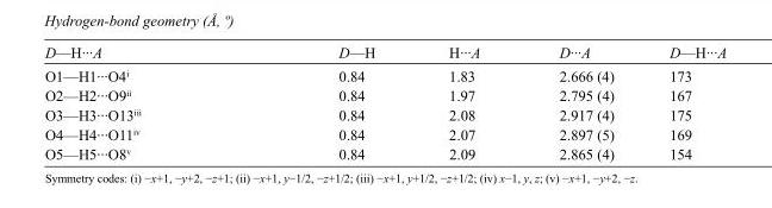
<table><tbody><tr><td>D—H···A</td><td>D—H</td><td>H···A</td><td>D···A</td><td>D—H···A</td></tr><tr><td>O1—H1···O4<sup>i</sup></td><td>0.84</td><td>1.83</td><td>2.666 (4)</td><td>173</td></tr><tr><td>O2—H2···O9<sup>ii</sup></td><td>0.84</td><td>1.97</td><td>2.795 (4)</td><td>167</td></tr><tr><td>O3—H3···O13<sup>iii</sup></td><td>0.84</td><td>2.08</td><td>2.917 (4)</td><td>175</td></tr><tr><td>O4—H4···O11<sup>iv</sup></td><td>0.84</td><td>2.07</td><td>2.897 (5)</td><td>169</td></tr><tr><td>O5—H5···O8<sup>v</sup></td><td>0.84</td><td>2.09</td><td>2.865 (4)</td><td>154</td></tr></tbody></table>